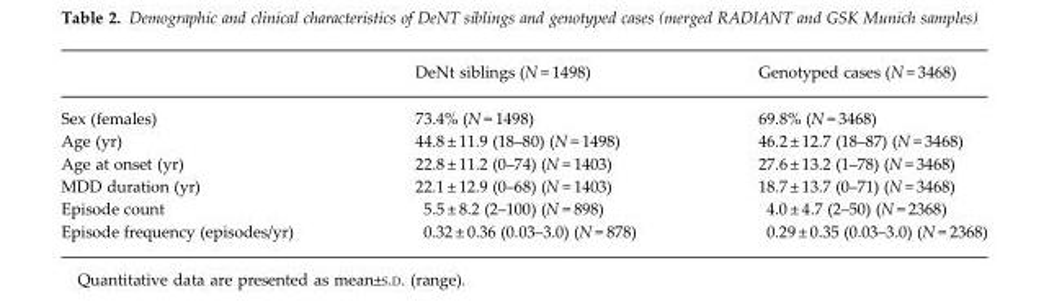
<table><thead><tr><td></td><td>DeNt siblings (N = 1498)</td><td>Genotyped cases (N = 3468)</td></tr></thead><tbody><tr><td>Sex (females)</td><td>73.4% (N = 1498)</td><td>69.8% (N = 3468)</td></tr><tr><td>Age (yr)</td><td>44.8 ± 11.9 (18–80) (N = 1498)</td><td>46.2 ± 12.7 (18–87) (N = 3468)</td></tr><tr><td>Age at onset (yr)</td><td>22.8 ± 11.2 (0–74) (N = 1403)</td><td>27.6 ± 13.2 (1–78) (N = 3468)</td></tr><tr><td>MDD duration (yr)</td><td>22.1 ± 12.9 (0–68) (N = 1403)</td><td>18.7 ± 13.7 (0–71) (N = 3468)</td></tr><tr><td>Episode count</td><td>5.5 ± 8.2 (2–100) (N = 898)</td><td>4.0 ± 4.7 (2–50) (N = 2368)</td></tr><tr><td>Episode frequency (episodes/yr)</td><td>0.32 ± 0.36 (0.03–3.0) (N = 878)</td><td>0.29 ± 0.35 (0.03–3.0) (N = 2368)</td></tr></tbody></table>